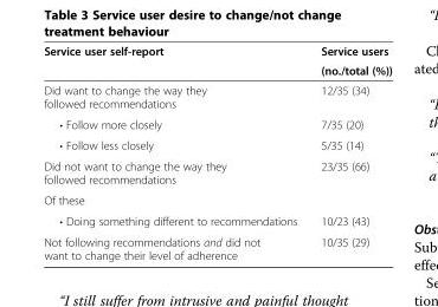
<table><thead><tr><td rowspan="2">Service user self-report</td><td rowspan="2">Service users (no./total (%))</td></tr><tr></tr></thead><tbody><tr><td>Did want to change the way they followed recommendations</td><td>12/35 (34)</td></tr><tr><td>• Follow more closely</td><td>7/35 (20)</td></tr><tr><td>• Follow less closely</td><td>5/35 (14)</td></tr><tr><td>Did not want to change the way they followed recommendations</td><td>23/35 (66)</td></tr><tr><td colspan="2">Of these</td></tr><tr><td>• Doing something different to recommendations</td><td>10/23 (43)</td></tr><tr><td>Not following recommendations and did not want to change their level of adherence</td><td>10/35 (29)</td></tr></tbody></table>